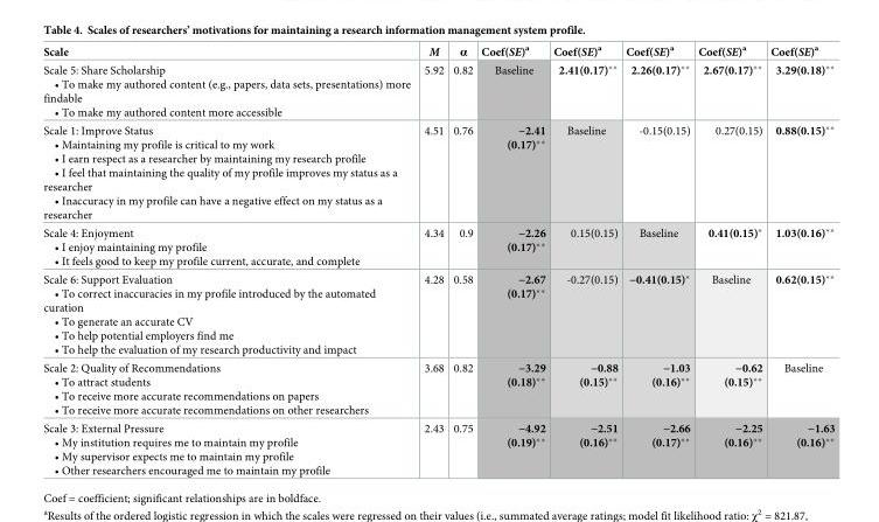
<table><thead><tr><td>Scale</td><td>M</td><td>α</td><td>Coef(SE)<sup>a</sup></td><td>Coef(SE)<sup>a</sup></td><td>Coef(SE)<sup>a</sup></td><td>Coef(SE)<sup>a</sup></td><td>Coef(SE)<sup>a</sup></td></tr></thead><tbody><tr><td>Scale 5: Share Scholarship • To make my authored content (e.g., papers, data sets, presentations) more findable • To make my authored content more accessible</td><td>5.92</td><td>0.82</td><td>Baseline</td><td>2.41(0.17)**</td><td>2.26(0.17)**</td><td>2.67(0.17)**</td><td>3.29(0.18)**</td></tr><tr><td>Scale 1: Improve Status • Maintaining my profile is critical to my work • I earn respect as a researcher by maintaining my research profile • I feel that maintaining the quality of my profile improves my status as a researcher • Inaccuracy in my profile can have a negative effect on my status as a researcher</td><td>4.51</td><td>0.76</td><td>−2.41 (0.17)**</td><td>Baseline</td><td>-0.15(0.15)</td><td>0.27(0.15)</td><td>0.88(0.15)**</td></tr><tr><td>Scale 4: Enjoyment • I enjoy maintaining my profile • It feels good to keep my profile current, accurate, and complete</td><td>4.34</td><td>0.9</td><td>−2.26 (0.17)**</td><td>0.15(0.15)</td><td>Baseline</td><td>0.41(0.15)*</td><td>1.03(0.16)**</td></tr><tr><td>Scale 6: Support Evaluation • To correct inaccuracies in my profile introduced by the automated curation • To generate an accurate CV • To help potential employers find me • To help the evaluation of my research productivity and impact</td><td>4.28</td><td>0.58</td><td>−2.67 (0.17)**</td><td>-0.27(0.15)</td><td>−0.41(0.15)*</td><td>Baseline</td><td>0.62(0.15)**</td></tr><tr><td>Scale 2: Quality of Recommendations • To attract students • To receive more accurate recommendations on papers • To receive more accurate recommendations on other researchers</td><td>3.68</td><td>0.82</td><td>−3.29 (0.18)**</td><td>−0.88 (0.15)**</td><td>−1.03 (0.16)**</td><td>−0.62 (0.15)**</td><td>Baseline</td></tr><tr><td>Scale 3: External Pressure • My institution requires me to maintain my profile • My supervisor expects me to maintain my profile • Other researchers encouraged me to maintain my profile</td><td>2.43</td><td>0.75</td><td>−4.92 (0.19)**</td><td>−2.51 (0.16)**</td><td>−2.66 (0.17)**</td><td>−2.25 (0.16)**</td><td>−1.63 (0.16)**</td></tr></tbody></table>